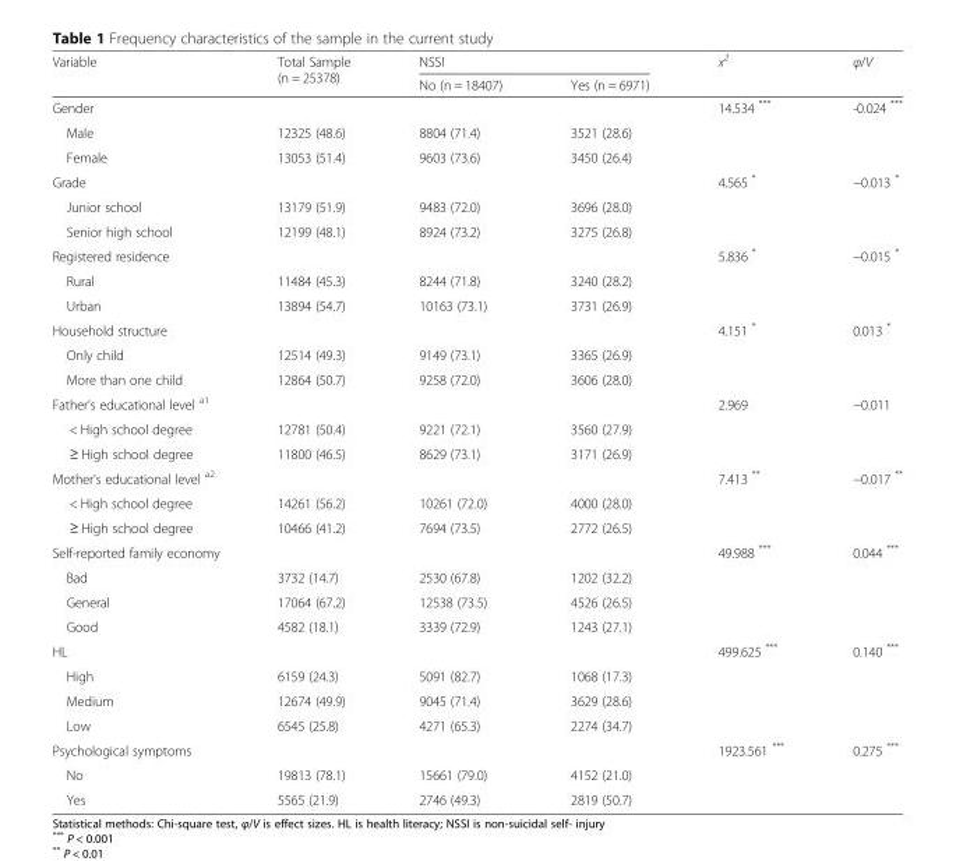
<table><thead><tr><td rowspan="2">Variable</td><td rowspan="2">Total Sample (n = 25378)</td><td colspan="2">NSSI</td><td rowspan="2">x<sup>2</sup></td><td rowspan="2">φ/V</td></tr><tr><td>No (n = 18407)</td><td>Yes (n = 6971)</td></tr></thead><tbody><tr><td>Gender</td><td></td><td></td><td></td><td>14.534 ***</td><td>-0.024 ***</td></tr><tr><td>Male</td><td>12325 (48.6)</td><td>8804 (71.4)</td><td>3521 (28.6)</td><td></td><td></td></tr><tr><td>Female</td><td>13053 (51.4)</td><td>9603 (73.6)</td><td>3450 (26.4)</td><td></td><td></td></tr><tr><td>Grade</td><td></td><td></td><td></td><td>4.565 *</td><td>−0.013 *</td></tr><tr><td>Junior school</td><td>13179 (51.9)</td><td>9483 (72.0)</td><td>3696 (28.0)</td><td></td><td></td></tr><tr><td>Senior high school</td><td>12199 (48.1)</td><td>8924 (73.2)</td><td>3275 (26.8)</td><td></td><td></td></tr><tr><td>Registered residence</td><td></td><td></td><td></td><td>5.836 *</td><td>−0.015 *</td></tr><tr><td>Rural</td><td>11484 (45.3)</td><td>8244 (71.8)</td><td>3240 (28.2)</td><td></td><td></td></tr><tr><td>Urban</td><td>13894 (54.7)</td><td>10163 (73.1)</td><td>3731 (26.9)</td><td></td><td></td></tr><tr><td>Household structure</td><td></td><td></td><td></td><td>4.151 *</td><td>0.013 *</td></tr><tr><td>Only child</td><td>12514 (49.3)</td><td>9149 (73.1)</td><td>3365 (26.9)</td><td></td><td></td></tr><tr><td>More than one child</td><td>12864 (50.7)</td><td>9258 (72.0)</td><td>3606 (28.0)</td><td></td><td></td></tr><tr><td>Father’s educational level <sup>a1</sup></td><td></td><td></td><td></td><td>2.969</td><td>−0.011</td></tr><tr><td>&lt; High school degree</td><td>12781 (50.4)</td><td>9221 (72.1)</td><td>3560 (27.9)</td><td></td><td></td></tr><tr><td>≥ High school degree</td><td>11800 (46.5)</td><td>8629 (73.1)</td><td>3171 (26.9)</td><td></td><td></td></tr><tr><td colspan="2">Mother’s educational level <sup>a2</sup></td><td></td><td></td><td>7.413 **</td><td>−0.017 **</td></tr><tr><td>&lt; High school degree</td><td>14261 (56.2)</td><td>10261 (72.0)</td><td>4000 (28.0)</td><td></td><td></td></tr><tr><td>≥ High school degree</td><td>10466 (41.2)</td><td>7694 (73.5)</td><td>2772 (26.5)</td><td></td><td></td></tr><tr><td colspan="2">Self-reported family economy</td><td></td><td></td><td>49.988 ***</td><td>0.044 ***</td></tr><tr><td>Bad</td><td>3732 (14.7)</td><td>2530 (67.8)</td><td>1202 (32.2)</td><td></td><td></td></tr><tr><td>General</td><td>17064 (67.2)</td><td>12538 (73.5)</td><td>4526 (26.5)</td><td></td><td></td></tr><tr><td>Good</td><td>4582 (18.1)</td><td>3339 (72.9)</td><td>1243 (27.1)</td><td></td><td></td></tr><tr><td>HL</td><td></td><td></td><td></td><td>499.625 ***</td><td>0.140 ***</td></tr><tr><td>High</td><td>6159 (24.3)</td><td>5091 (82.7)</td><td>1068 (17.3)</td><td></td><td></td></tr><tr><td>Medium</td><td>12674 (49.9)</td><td>9045 (71.4)</td><td>3629 (28.6)</td><td></td><td></td></tr><tr><td>Low</td><td>6545 (25.8)</td><td>4271 (65.3)</td><td>2274 (34.7)</td><td></td><td></td></tr><tr><td colspan="2">Psychological symptoms</td><td></td><td></td><td>1923.561 ***</td><td>0.275 ***</td></tr><tr><td>No</td><td>19813 (78.1)</td><td>15661 (79.0)</td><td>4152 (21.0)</td><td></td><td></td></tr><tr><td>Yes</td><td>5565 (21.9)</td><td>2746 (49.3)</td><td>2819 (50.7)</td><td></td><td></td></tr></tbody></table>